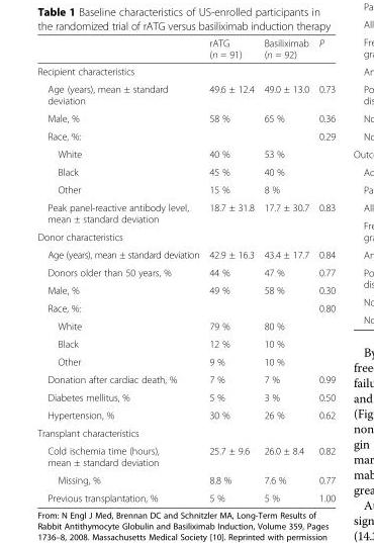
<table><thead><tr><td></td><td>rATG (n = 91)</td><td>Basiliximab (n = 92)</td><td>P</td></tr></thead><tbody><tr><td colspan="4">Recipient characteristics</td></tr><tr><td>Age (years), mean ± standard deviation</td><td>49.6 ± 12.4</td><td>49.0 ± 13.0</td><td>0.73</td></tr><tr><td>Male, %</td><td>58 %</td><td>65 %</td><td>0.36</td></tr><tr><td>Race, %:</td><td></td><td></td><td>0.29</td></tr><tr><td>White</td><td>40 %</td><td>53 %</td><td></td></tr><tr><td>Black</td><td>45 %</td><td>40 %</td><td></td></tr><tr><td>Other</td><td>15 %</td><td>8 %</td><td></td></tr><tr><td>Peak panel-reactive antibody level, mean ± standard deviation</td><td>18.7 ± 31.8</td><td>17.7 ± 30.7</td><td>0.83</td></tr><tr><td colspan="4">Donor characteristics</td></tr><tr><td>Age (years), mean ± standard deviation</td><td>42.9 ± 16.3</td><td>43.4 ± 17.7</td><td>0.84</td></tr><tr><td>Donors older than 50 years, %</td><td>44 %</td><td>47 %</td><td>0.77</td></tr><tr><td>Male, %</td><td>49 %</td><td>58 %</td><td>0.30</td></tr><tr><td>Race, %:</td><td></td><td></td><td>0.80</td></tr><tr><td>White</td><td>79 %</td><td>80 %</td><td></td></tr><tr><td>Black</td><td>12 %</td><td>10 %</td><td></td></tr><tr><td>Other</td><td>9 %</td><td>10 %</td><td></td></tr><tr><td>Donation after cardiac death, %</td><td>7 %</td><td>7 %</td><td>0.99</td></tr><tr><td>Diabetes mellitus, %</td><td>5 %</td><td>3 %</td><td>0.50</td></tr><tr><td>Hypertension, %</td><td>30 %</td><td>26 %</td><td>0.62</td></tr><tr><td colspan="4">Transplant characteristics</td></tr><tr><td>Cold ischemia time (hours), mean ± standard deviation</td><td>25.7 ± 9.6</td><td>26.0 ± 8.4</td><td>0.82</td></tr><tr><td>Missing, %</td><td>8.8 %</td><td>7.6 %</td><td>0.77</td></tr><tr><td>Previous transplantation, %</td><td>5 %</td><td>5 %</td><td>1.00</td></tr></tbody></table>